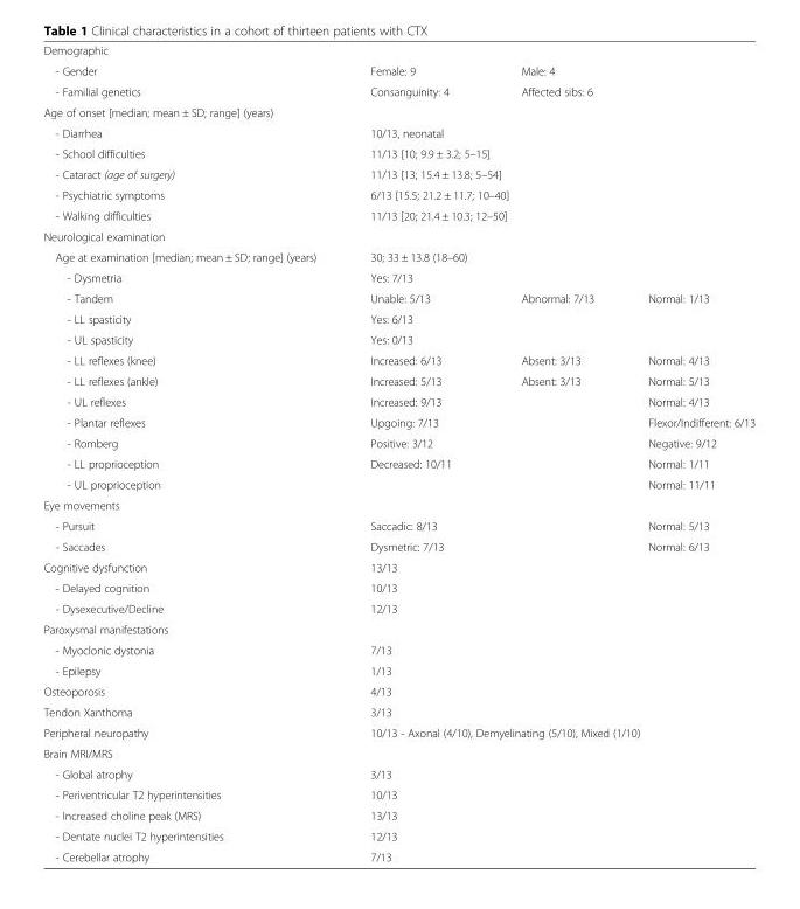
<table><tbody><tr><td colspan="4">Demographic</td></tr><tr><td>- Gender</td><td>Female: 9</td><td>Male: 4</td><td></td></tr><tr><td>- Familial genetics</td><td>Consanguinity: 4</td><td>Affected sibs: 6</td><td></td></tr><tr><td colspan="4">Age of onset [median; mean ± SD; range] (years)</td></tr><tr><td>- Diarrhea</td><td colspan="3">10/13, neonatal</td></tr><tr><td>- School difficulties</td><td colspan="3">11/13 [10; 9.9 ± 3.2; 5–15]</td></tr><tr><td>- Cataract (age of surgery)</td><td colspan="3">11/13 [13; 15.4 ± 13.8; 5–54]</td></tr><tr><td>- Psychiatric symptoms</td><td colspan="3">6/13 [15.5; 21.2 ± 11.7; 10–40]</td></tr><tr><td>- Walking difficulties</td><td colspan="3">11/13 [20; 21.4 ± 10.3; 12–50]</td></tr><tr><td colspan="4">Neurological examination</td></tr><tr><td>Age at examination [median; mean ± SD; range] (years)</td><td>30; 33 ± 13.8 (18–60)</td><td></td><td></td></tr><tr><td>- Dysmetria</td><td>Yes: 7/13</td><td></td><td></td></tr><tr><td>- Tandem</td><td>Unable: 5/13</td><td>Abnormal: 7/13</td><td>Normal: 1/13</td></tr><tr><td>- LL spasticity</td><td>Yes: 6/13</td><td></td><td></td></tr><tr><td>- UL spasticity</td><td>Yes: 0/13</td><td></td><td></td></tr><tr><td>- LL reflexes (knee)</td><td>Increased: 6/13</td><td>Absent: 3/13</td><td>Normal: 4/13</td></tr><tr><td>- LL reflexes (ankle)</td><td>Increased: 5/13</td><td>Absent: 3/13</td><td>Normal: 5/13</td></tr><tr><td>- UL reflexes</td><td>Increased: 9/13</td><td></td><td>Normal: 4/13</td></tr><tr><td>- Plantar reflexes</td><td>Upgoing: 7/13</td><td></td><td>Flexor/Indifferent: 6/13</td></tr><tr><td>- Romberg</td><td>Positive: 3/12</td><td></td><td>Negative: 9/12</td></tr><tr><td>- LL proprioception</td><td>Decreased: 10/11</td><td></td><td>Normal: 1/11</td></tr><tr><td>- UL proprioception</td><td></td><td></td><td>Normal: 11/11</td></tr><tr><td colspan="4">Eye movements</td></tr><tr><td>- Pursuit</td><td>Saccadic: 8/13</td><td></td><td>Normal: 5/13</td></tr><tr><td>- Saccades</td><td>Dysmetric: 7/13</td><td></td><td>Normal: 6/13</td></tr><tr><td>Cognitive dysfunction</td><td>13/13</td><td></td><td></td></tr><tr><td>- Delayed cognition</td><td>10/13</td><td></td><td></td></tr><tr><td>- Dysexecutive/Decline</td><td>12/13</td><td></td><td></td></tr><tr><td colspan="4">Paroxysmal manifestations</td></tr><tr><td>- Myoclonic dystonia</td><td>7/13</td><td></td><td></td></tr><tr><td>- Epilepsy</td><td>1/13</td><td></td><td></td></tr><tr><td>Osteoporosis</td><td colspan="3">4/13</td></tr><tr><td>Tendon Xanthoma</td><td colspan="3">3/13</td></tr><tr><td>Peripheral neuropathy</td><td colspan="3">10/13 - Axonal (4/10), Demyelinating (5/10), Mixed (1/10)</td></tr><tr><td colspan="4">Brain MRI/MRS</td></tr><tr><td>- Global atrophy</td><td colspan="3">3/13</td></tr><tr><td>- Periventricular T2 hyperintensities</td><td colspan="3">10/13</td></tr><tr><td>- Increased choline peak (MRS)</td><td colspan="3">13/13</td></tr><tr><td>- Dentate nuclei T2 hyperintensities</td><td colspan="3">12/13</td></tr><tr><td>- Cerebellar atrophy</td><td colspan="3">7/13</td></tr></tbody></table>